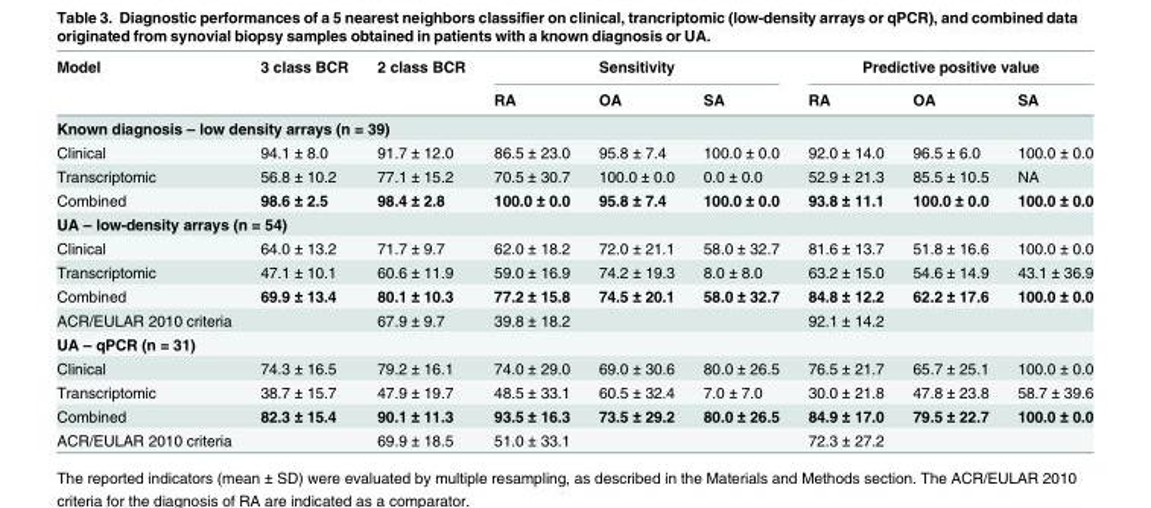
<table><thead><tr><td rowspan="2">Model</td><td rowspan="2">3 class BCR</td><td rowspan="2">2 class BCR</td><td colspan="3">Sensitivity</td><td colspan="3">Predictive positive value</td></tr><tr><td>RA</td><td>OA</td><td>SA</td><td>RA</td><td>OA</td><td>SA</td></tr></thead><tbody><tr><td colspan="9">Known diagnosis – low density arrays (n = 39)</td></tr><tr><td>Clinical</td><td>94.1 ± 8.0</td><td>91.7 ± 12.0</td><td>86.5 ± 23.0</td><td>95.8 ± 7.4</td><td>100.0 ± 0.0</td><td>92.0 ± 14.0</td><td>96.5 ± 6.0</td><td>100.0 ± 0.0</td></tr><tr><td>Transcriptomic</td><td>56.8 ± 10.2</td><td>77.1 ± 15.2</td><td>70.5 ± 30.7</td><td>100.0 ± 0.0</td><td>0.0 ± 0.0</td><td>52.9 ± 21.3</td><td>85.5 ± 10.5</td><td>NA</td></tr><tr><td>Combined</td><td>98.6 ± 2.5</td><td>98.4 ± 2.8</td><td>100.0 ± 0.0</td><td>95.8 ± 7.4</td><td>100.0 ± 0.0</td><td>93.8 ± 11.1</td><td>100.0 ± 0.0</td><td>100.0 ± 0.0</td></tr><tr><td colspan="9">UA – low-density arrays (n = 54)</td></tr><tr><td>Clinical</td><td>64.0 ± 13.2</td><td>71.7 ± 9.7</td><td>62.0 ± 18.2</td><td>72.0 ± 21.1</td><td>58.0 ± 32.7</td><td>81.6 ± 13.7</td><td>51.8 ± 16.6</td><td>100.0 ± 0.0</td></tr><tr><td>Transcriptomic</td><td>47.1 ± 10.1</td><td>60.6 ± 11.9</td><td>59.0 ± 16.9</td><td>74.2 ± 19.3</td><td>8.0 ± 8.0</td><td>63.2 ± 15.0</td><td>54.6 ± 14.9</td><td>43.1 ± 36.9</td></tr><tr><td>Combined</td><td>69.9 ± 13.4</td><td>80.1 ± 10.3</td><td>77.2 ± 15.8</td><td>74.5 ± 20.1</td><td>58.0 ± 32.7</td><td>84.8 ± 12.2</td><td>62.2 ± 17.6</td><td>100.0 ± 0.0</td></tr><tr><td>ACR/EULAR 2010 criteria</td><td></td><td>67.9 ± 9.7</td><td>39.8 ± 18.2</td><td></td><td></td><td>92.1 ± 14.2</td><td></td><td></td></tr><tr><td colspan="9">UA – qPCR (n = 31)</td></tr><tr><td>Clinical</td><td>74.3 ± 16.5</td><td>79.2 ± 16.1</td><td>74.0 ± 29.0</td><td>69.0 ± 30.6</td><td>80.0 ± 26.5</td><td>76.5 ± 21.7</td><td>65.7 ± 25.1</td><td>100.0 ± 0.0</td></tr><tr><td>Transcriptomic</td><td>38.7 ± 15.7</td><td>47.9 ± 19.7</td><td>48.5 ± 33.1</td><td>60.5 ± 32.4</td><td>7.0 ± 7.0</td><td>30.0 ± 21.8</td><td>47.8 ± 23.8</td><td>58.7 ± 39.6</td></tr><tr><td>Combined</td><td>82.3 ± 15.4</td><td>90.1 ± 11.3</td><td>93.5 ± 16.3</td><td>73.5 ± 29.2</td><td>80.0 ± 26.5</td><td>84.9 ± 17.0</td><td>79.5 ± 22.7</td><td>100.0 ± 0.0</td></tr><tr><td>ACR/EULAR 2010 criteria</td><td></td><td>69.9 ± 18.5</td><td>51.0 ± 33.1</td><td></td><td></td><td>72.3 ± 27.2</td><td></td><td></td></tr></tbody></table>